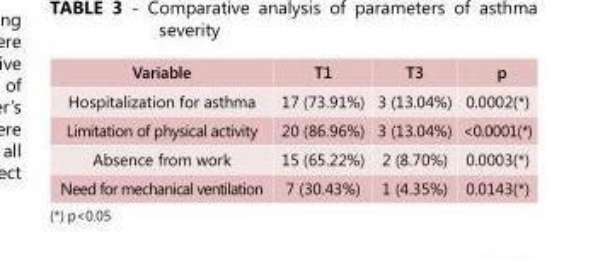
<table><thead><tr><td>Variable</td><td>T1</td><td>T3</td><td>p</td></tr></thead><tbody><tr><td>Hospitalization for asthma</td><td>17 (73.91%)</td><td>3 (13.04%)</td><td>0.0002(*)</td></tr><tr><td>Limitation of physical activity</td><td>20 (86.96%)</td><td>3 (13.04%)</td><td>&lt;0.0001(*)</td></tr><tr><td>Absence from work</td><td>15 (65.22%)</td><td>2 (8.70%)</td><td>0.0003(*)</td></tr><tr><td>Need for mechanical ventilation</td><td>7 (30.43%)</td><td>1 (4.35%)</td><td>0.0143(*)</td></tr></tbody></table>